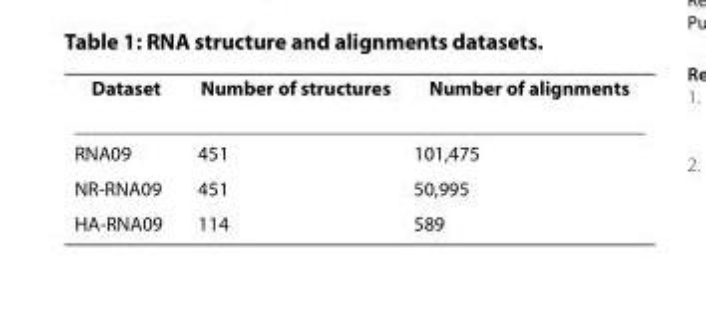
<table><thead><tr><td>Dataset</td><td>Number of structures</td><td>Number of alignments</td></tr></thead><tbody><tr><td>RNA09</td><td>451</td><td>101,475</td></tr><tr><td>NR-RNA09</td><td>451</td><td>50,995</td></tr><tr><td>HA-RNA09</td><td>114</td><td>589</td></tr></tbody></table>